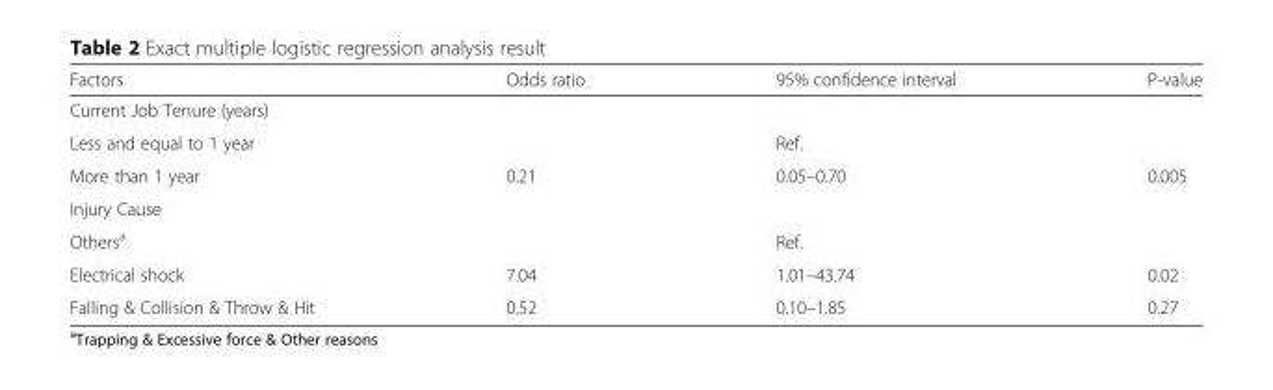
<table><thead><tr><td>Factors</td><td>Odds ratio</td><td>95% confidence interval</td><td>P-value</td></tr></thead><tbody><tr><td colspan="4">Current Job Tenure (years)</td></tr><tr><td>Less and equal to 1 year</td><td></td><td>Ref.</td><td></td></tr><tr><td>More than 1 year</td><td>0.21</td><td>0.05–0.70</td><td>0.005</td></tr><tr><td colspan="4">Injury Cause</td></tr><tr><td>Others<sup>a</sup></td><td></td><td>Ref.</td><td></td></tr><tr><td>Electrical shock</td><td>7.04</td><td>1.01–43.74</td><td>0.02</td></tr><tr><td>Falling &amp; Collision &amp; Throw &amp; Hit</td><td>0.52</td><td>0.10–1.85</td><td>0.27</td></tr></tbody></table>